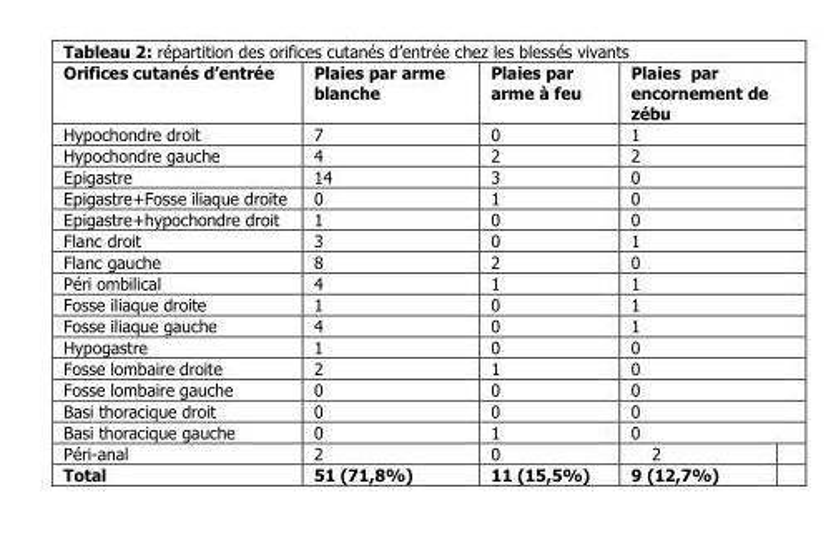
<table><thead><tr><td>Orifices cutanés d’entrée</td><td>Plaies par arme blanche</td><td>Plaies par arme à feu</td><td>Plaies par encornement de zébu</td></tr></thead><tbody><tr><td>Hypochondre droit</td><td>7</td><td>0</td><td>1</td></tr><tr><td>Hypochondre gauche</td><td>4</td><td>2</td><td>2</td></tr><tr><td>Epigastre</td><td>14</td><td>3</td><td>0</td></tr><tr><td>Epigastre+Fosse iliaque droite</td><td>0</td><td>1</td><td>0</td></tr><tr><td>Epigastre+hypochondre droit</td><td>1</td><td>0</td><td>0</td></tr><tr><td>Flanc droit</td><td>3</td><td>0</td><td>1</td></tr><tr><td>Flanc gauche</td><td>8</td><td>2</td><td>0</td></tr><tr><td>Péri ombilical</td><td>4</td><td>1</td><td>1</td></tr><tr><td>Fosse iliaque droite</td><td>1</td><td>0</td><td>1</td></tr><tr><td>Fosse iliaque gauche</td><td>4</td><td>0</td><td>1</td></tr><tr><td>Hypogastre</td><td>1</td><td>0</td><td>0</td></tr><tr><td>Fosse lombaire droite</td><td>2</td><td>1</td><td>0</td></tr><tr><td>Fosse lombaire gauche</td><td>0</td><td>0</td><td>0</td></tr><tr><td>Basi thoracique droit</td><td>0</td><td>0</td><td>0</td></tr><tr><td>Basi thoracique gauche</td><td>0</td><td>1</td><td>0</td></tr><tr><td>Péri-anal</td><td>2</td><td>0</td><td>2</td></tr><tr><td>Total</td><td>51 (71,8%)</td><td>11 (15,5%)</td><td>9 (12,7%)</td></tr></tbody></table>